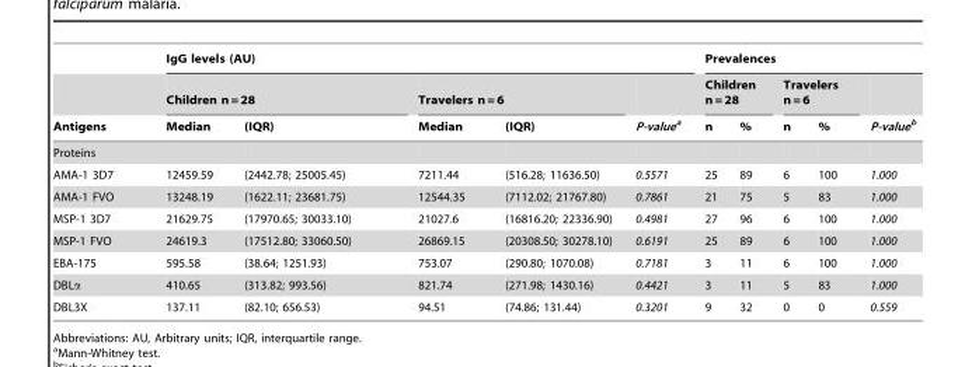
<table><thead><tr><td rowspan="3">Antigens</td><td colspan="5">IgG levels (AU)</td><td colspan="5">Prevalences</td></tr><tr><td colspan="2">Children n = 28</td><td colspan="2">Travelers n = 6</td><td rowspan="2">P-valuea</td><td colspan="2">Children n = 28</td><td colspan="2">Travelers n = 6</td><td rowspan="2">P-valueb</td></tr><tr><td>Median</td><td>(IQR)</td><td>Median</td><td>(IQR)</td><td>n</td><td>%</td><td>n</td><td>%</td></tr></thead><tbody><tr><td colspan="11">Proteins</td></tr><tr><td>AMA-1 3D7</td><td>12459.59</td><td>(2442.78; 25005.45)</td><td>7211.44</td><td>(516.28; 11636.50)</td><td>0.5571</td><td>25</td><td>89</td><td>6</td><td>100</td><td>1.000</td></tr><tr><td>AMA-1 FVO</td><td>13248.19</td><td>(1622.11; 23681.75)</td><td>12544.35</td><td>(7112.02; 21767.80)</td><td>0.7861</td><td>21</td><td>75</td><td>5</td><td>83</td><td>1.000</td></tr><tr><td>MSP-1 3D7</td><td>21629.75</td><td>(17970.65; 30033.10)</td><td>21027.6</td><td>(16816.20; 22336.90)</td><td>0.4981</td><td>27</td><td>96</td><td>6</td><td>100</td><td>1.000</td></tr><tr><td>MSP-1 FVO</td><td>24619.3</td><td>(17512.80; 33060.50)</td><td>26869.15</td><td>(20308.50; 30278.10)</td><td>0.6191</td><td>25</td><td>89</td><td>6</td><td>100</td><td>1.000</td></tr><tr><td>EBA-175</td><td>595.58</td><td>(38.64; 1251.93)</td><td>753.07</td><td>(290.80; 1070.08)</td><td>0.7181</td><td>3</td><td>11</td><td>6</td><td>100</td><td>1.000</td></tr><tr><td>DBLα</td><td>410.65</td><td>(313.82; 993.56)</td><td>821.74</td><td>(271.98; 1430.16)</td><td>0.4421</td><td>3</td><td>11</td><td>5</td><td>83</td><td>1.000</td></tr><tr><td>DBL3X</td><td>137.11</td><td>(82.10; 656.53)</td><td>94.51</td><td>(74.86; 131.44)</td><td>0.3201</td><td>9</td><td>32</td><td>0</td><td>0</td><td>0.559</td></tr></tbody></table>